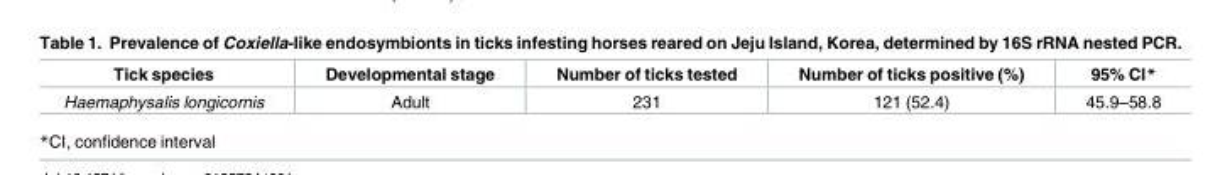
<table><thead><tr><td>Tick species</td><td>Developmental stage</td><td>Number of ticks tested</td><td>Number of ticks positive (%)</td><td>95% CI*</td></tr></thead><tbody><tr><td>Haemaphysalis longicornis</td><td>Adult</td><td>231</td><td>121 (52.4)</td><td>45.9–58.8</td></tr></tbody></table>